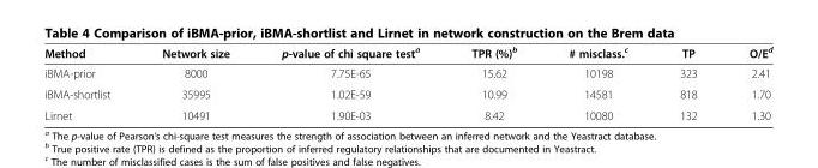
<table><thead><tr><td>Method</td><td>Network size</td><td>p-value of chi square test<sup>a</sup></td><td>TPR (%)<sup>b</sup></td><td># misclass.<sup>c</sup></td><td>TP</td><td>O/E<sup>d</sup></td></tr></thead><tbody><tr><td>iBMA-prior</td><td>8000</td><td>7.75E-65</td><td>15.62</td><td>10198</td><td>323</td><td>2.41</td></tr><tr><td>iBMA-shortlist</td><td>35995</td><td>1.02E-59</td><td>10.99</td><td>14581</td><td>818</td><td>1.70</td></tr><tr><td>Lirnet</td><td>10491</td><td>1.90E-03</td><td>8.42</td><td>10080</td><td>132</td><td>1.30</td></tr></tbody></table>